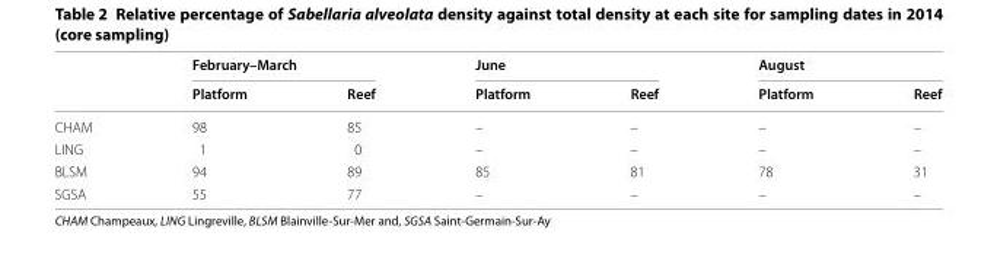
<table><thead><tr><td rowspan="2"></td><td colspan="2">February–March</td><td colspan="2">June</td><td colspan="2">August</td></tr><tr><td>Platform</td><td>Reef</td><td>Platform</td><td>Reef</td><td>Platform</td><td>Reef</td></tr></thead><tbody><tr><td>CHAM</td><td>98</td><td>85</td><td>–</td><td>–</td><td>–</td><td>–</td></tr><tr><td>LING</td><td>1</td><td>0</td><td>–</td><td>–</td><td>–</td><td>–</td></tr><tr><td>BLSM</td><td>94</td><td>89</td><td>85</td><td>81</td><td>78</td><td>31</td></tr><tr><td>SGSA</td><td>55</td><td>77</td><td>–</td><td>–</td><td>–</td><td>–</td></tr></tbody></table>